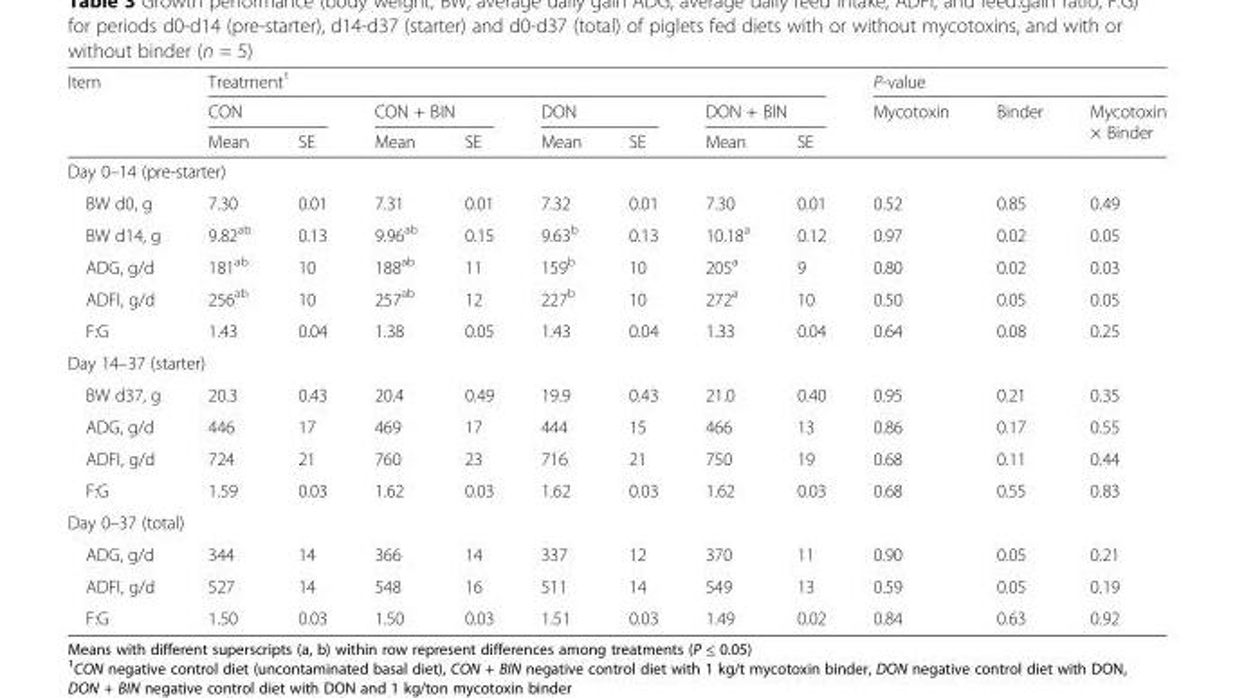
<table><thead><tr><td rowspan="3">Item</td><td colspan="8">Treatment<sup>1</sup></td><td colspan="3">P-value</td></tr><tr><td colspan="2">CON</td><td colspan="2">CON + BIN</td><td colspan="2">DON</td><td colspan="2">DON + BIN</td><td rowspan="2">Mycotoxin</td><td rowspan="2">Binder</td><td rowspan="2">Mycotoxin × Binder</td></tr><tr><td>Mean</td><td>SE</td><td>Mean</td><td>SE</td><td>Mean</td><td>SE</td><td>Mean</td><td>SE</td></tr></thead><tbody><tr><td colspan="12">Day 0–14 (pre-starter)</td></tr><tr><td>BW d0, g</td><td>7.30</td><td>0.01</td><td>7.31</td><td>0.01</td><td>7.32</td><td>0.01</td><td>7.30</td><td>0.01</td><td>0.52</td><td>0.85</td><td>0.49</td></tr><tr><td>BW d14, g</td><td>9.82<sup>ab</sup></td><td>0.13</td><td>9.96<sup>ab</sup></td><td>0.15</td><td>9.63<sup>b</sup></td><td>0.13</td><td>10.18<sup>a</sup></td><td>0.12</td><td>0.97</td><td>0.02</td><td>0.05</td></tr><tr><td>ADG, g/d</td><td>181<sup>ab</sup></td><td>10</td><td>188<sup>ab</sup></td><td>11</td><td>159<sup>b</sup></td><td>10</td><td>205<sup>a</sup></td><td>9</td><td>0.80</td><td>0.02</td><td>0.03</td></tr><tr><td>ADFI, g/d</td><td>256<sup>ab</sup></td><td>10</td><td>257<sup>ab</sup></td><td>12</td><td>227<sup>b</sup></td><td>10</td><td>272<sup>a</sup></td><td>10</td><td>0.50</td><td>0.05</td><td>0.05</td></tr><tr><td>F:G</td><td>1.43</td><td>0.04</td><td>1.38</td><td>0.05</td><td>1.43</td><td>0.04</td><td>1.33</td><td>0.04</td><td>0.64</td><td>0.08</td><td>0.25</td></tr><tr><td colspan="12">Day 14–37 (starter)</td></tr><tr><td>BW d37, g</td><td>20.3</td><td>0.43</td><td>20.4</td><td>0.49</td><td>19.9</td><td>0.43</td><td>21.0</td><td>0.40</td><td>0.95</td><td>0.21</td><td>0.35</td></tr><tr><td>ADG, g/d</td><td>446</td><td>17</td><td>469</td><td>17</td><td>444</td><td>15</td><td>466</td><td>13</td><td>0.86</td><td>0.17</td><td>0.55</td></tr><tr><td>ADFI, g/d</td><td>724</td><td>21</td><td>760</td><td>23</td><td>716</td><td>21</td><td>750</td><td>19</td><td>0.68</td><td>0.11</td><td>0.44</td></tr><tr><td>F:G</td><td>1.59</td><td>0.03</td><td>1.62</td><td>0.03</td><td>1.62</td><td>0.03</td><td>1.62</td><td>0.03</td><td>0.68</td><td>0.55</td><td>0.83</td></tr><tr><td colspan="12">Day 0–37 (total)</td></tr><tr><td>ADG, g/d</td><td>344</td><td>14</td><td>366</td><td>14</td><td>337</td><td>12</td><td>370</td><td>11</td><td>0.90</td><td>0.05</td><td>0.21</td></tr><tr><td>ADFI, g/d</td><td>527</td><td>14</td><td>548</td><td>16</td><td>511</td><td>14</td><td>549</td><td>13</td><td>0.59</td><td>0.05</td><td>0.19</td></tr><tr><td>F:G</td><td>1.50</td><td>0.03</td><td>1.50</td><td>0.03</td><td>1.51</td><td>0.03</td><td>1.49</td><td>0.02</td><td>0.84</td><td>0.63</td><td>0.92</td></tr></tbody></table>